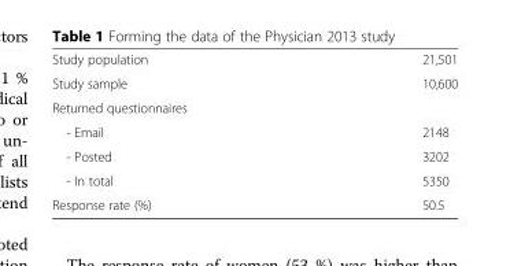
<table><tbody><tr><td>Study population</td><td>21,501</td></tr><tr><td>Study sample</td><td>10,600</td></tr><tr><td colspan="2">Returned questionnaires</td></tr><tr><td>- Email</td><td>2148</td></tr><tr><td>- Posted</td><td>3202</td></tr><tr><td>- In total</td><td>5350</td></tr><tr><td>Response rate (%)</td><td>50.5</td></tr></tbody></table>